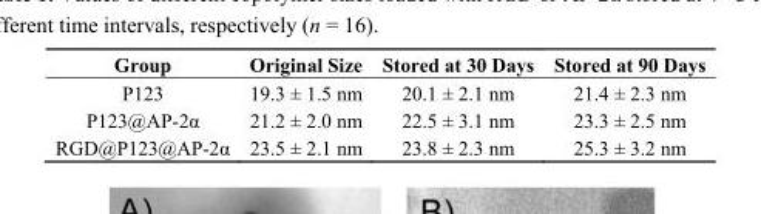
<table><thead><tr><td>Group</td><td>Original Size</td><td>Stored at 30 Days</td><td>Stored at 90 Days</td></tr></thead><tbody><tr><td>P123</td><td>19.3 ± 1.5 nm</td><td>20.1 ± 2.1 nm</td><td>21.4 ± 2.3 nm</td></tr><tr><td>P123@AP-2α</td><td>21.2 ± 2.0 nm</td><td>22.5 ± 3.1 nm</td><td>23.3 ± 2.5 nm</td></tr><tr><td>RGD@P123@AP-2α</td><td>23.5 ± 2.1 nm</td><td>23.8 ± 2.3 nm</td><td>25.3 ± 3.2 nm</td></tr></tbody></table>